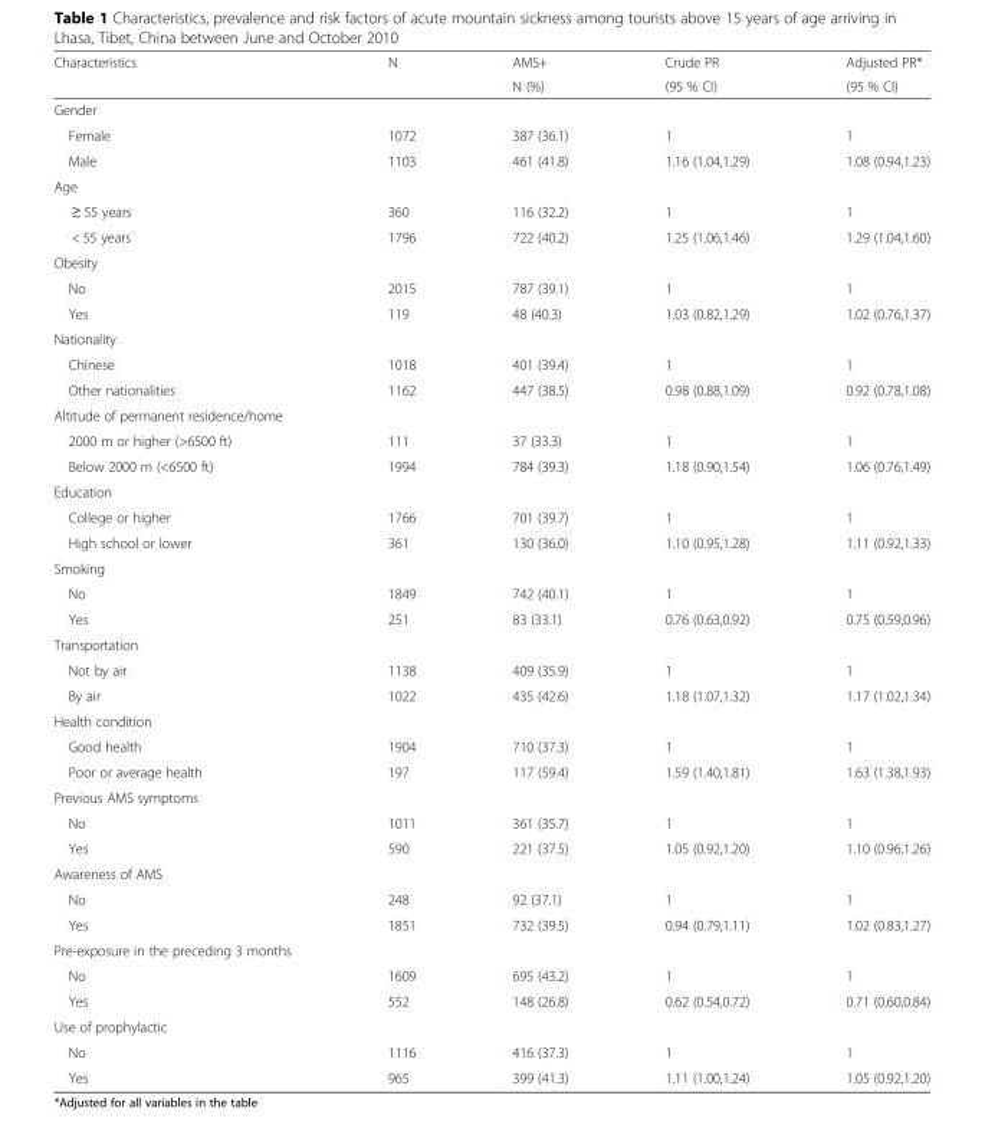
<table><thead><tr><td rowspan="2">Characteristics</td><td rowspan="2">N</td><td rowspan="2">AMS+ N (%)</td><td rowspan="2">Crude PR (95 % CI)</td><td rowspan="2">Adjusted PR* (95 % CI)</td></tr><tr></tr></thead><tbody><tr><td colspan="5">Gender</td></tr><tr><td>Female</td><td>1072</td><td>387 (36.1)</td><td>1</td><td>1</td></tr><tr><td>Male</td><td>1103</td><td>461 (41.8)</td><td>1.16 (1.04,1.29)</td><td>1.08 (0.94,1.23)</td></tr><tr><td colspan="5">Age</td></tr><tr><td>≥ 55 years</td><td>360</td><td>116 (32.2)</td><td>1</td><td>1</td></tr><tr><td>&lt; 55 years</td><td>1796</td><td>722 (40.2)</td><td>1.25 (1.06,1.46)</td><td>1.29 (1.04,1.60)</td></tr><tr><td colspan="5">Obesity</td></tr><tr><td>No</td><td>2015</td><td>787 (39.1)</td><td>1</td><td>1</td></tr><tr><td>Yes</td><td>119</td><td>48 (40.3)</td><td>1.03 (0.82,1.29)</td><td>1.02 (0.76,1.37)</td></tr><tr><td colspan="5">Nationality</td></tr><tr><td>Chinese</td><td>1018</td><td>401 (39.4)</td><td>1</td><td>1</td></tr><tr><td>Other nationalities</td><td>1162</td><td>447 (38.5)</td><td>0.98 (0.88,1.09)</td><td>0.92 (0.78,1.08)</td></tr><tr><td colspan="5">Altitude of permanent residence/home</td></tr><tr><td>2000 m or higher (&gt;6500 ft)</td><td>111</td><td>37 (33.3)</td><td>1</td><td>1</td></tr><tr><td>Below 2000 m (&lt;6500 ft)</td><td>1994</td><td>784 (39.3)</td><td>1.18 (0.90,1.54)</td><td>1.06 (0.76,1.49)</td></tr><tr><td colspan="5">Education</td></tr><tr><td>College or higher</td><td>1766</td><td>701 (39.7)</td><td>1</td><td>1</td></tr><tr><td>High school or lower</td><td>361</td><td>130 (36.0)</td><td>1.10 (0.95,1.28)</td><td>1.11 (0.92,1.33)</td></tr><tr><td colspan="5">Smoking</td></tr><tr><td>No</td><td>1849</td><td>742 (40.1)</td><td>1</td><td>1</td></tr><tr><td>Yes</td><td>251</td><td>83 (33.1)</td><td>0.76 (0.63,0.92)</td><td>0.75 (0.59,0.96)</td></tr><tr><td colspan="5">Transportation</td></tr><tr><td>Not by air</td><td>1138</td><td>409 (35.9)</td><td>1</td><td>1</td></tr><tr><td>By air</td><td>1022</td><td>435 (42.6)</td><td>1.18 (1.07,1.32)</td><td>1.17 (1.02,1.34)</td></tr><tr><td colspan="5">Health condition</td></tr><tr><td>Good health</td><td>1904</td><td>710 (37.3)</td><td>1</td><td>1</td></tr><tr><td>Poor or average health</td><td>197</td><td>117 (59.4)</td><td>1.59 (1.40,1.81)</td><td>1.63 (1.38,1.93)</td></tr><tr><td colspan="5">Previous AMS symptoms</td></tr><tr><td>No</td><td>1011</td><td>361 (35.7)</td><td>1</td><td>1</td></tr><tr><td>Yes</td><td>590</td><td>221 (37.5)</td><td>1.05 (0.92,1.20)</td><td>1.10 (0.96,1.26)</td></tr><tr><td colspan="5">Awareness of AMS</td></tr><tr><td>No</td><td>248</td><td>92 (37.1)</td><td>1</td><td>1</td></tr><tr><td>Yes</td><td>1851</td><td>732 (39.5)</td><td>0.94 (0.79,1.11)</td><td>1.02 (0.83,1.27)</td></tr><tr><td colspan="5">Pre-exposure in the preceding 3 months</td></tr><tr><td>No</td><td>1609</td><td>695 (43.2)</td><td>1</td><td>1</td></tr><tr><td>Yes</td><td>552</td><td>148 (26.8)</td><td>0.62 (0.54,0.72)</td><td>0.71 (0.60,0.84)</td></tr><tr><td colspan="5">Use of prophylactic</td></tr><tr><td>No</td><td>1116</td><td>416 (37.3)</td><td>1</td><td>1</td></tr><tr><td>Yes</td><td>965</td><td>399 (41.3)</td><td>1.11 (1.00,1.24)</td><td>1.05 (0.92,1.20)</td></tr></tbody></table>